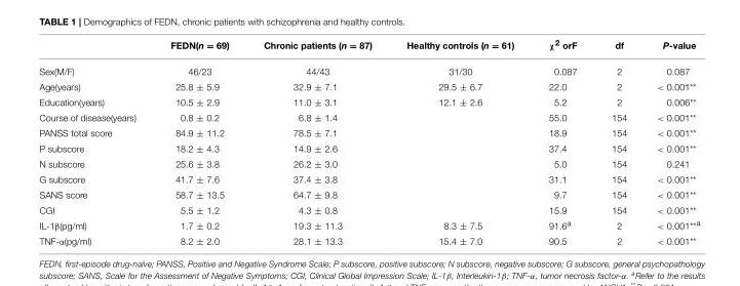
<table><thead><tr><td></td><td>FEDN(n = 69)</td><td>Chronic patients (n = 87)</td><td>Healthy controls (n = 61)</td><td>χ<sup>2</sup> orF</td><td>df</td><td>P-value</td></tr></thead><tbody><tr><td>Sex(M/F)</td><td>46/23</td><td>44/43</td><td>31/30</td><td>0.087</td><td>2</td><td>0.087</td></tr><tr><td>Age(years)</td><td>25.8 ± 5.9</td><td>32.9 ± 7.1</td><td>29.5 ± 6.7</td><td>22.0</td><td>2</td><td>&lt; 0.001**</td></tr><tr><td>Education(years)</td><td>10.5 ± 2.9</td><td>11.0 ± 3.1</td><td>12.1 ± 2.6</td><td>5.2</td><td>2</td><td>0.006**</td></tr><tr><td>Course of disease(years)</td><td>0.8 ± 0.2</td><td>6.8 ± 1.4</td><td></td><td>55.0</td><td>154</td><td>&lt; 0.001**</td></tr><tr><td>PANSS total score</td><td>84.9 ± 11.2</td><td>78.5 ± 7.1</td><td></td><td>18.9</td><td>154</td><td>&lt; 0.001**</td></tr><tr><td>P subscore</td><td>18.2 ± 4.3</td><td>14.9 ± 2.6</td><td></td><td>37.4</td><td>154</td><td>&lt; 0.001**</td></tr><tr><td>N subscore</td><td>25.6 ± 3.8</td><td>26.2 ± 3.0</td><td></td><td>5.0</td><td>154</td><td>0.241</td></tr><tr><td>G subscore</td><td>41.7 ± 7.6</td><td>37.4 ± 3.8</td><td></td><td>31.1</td><td>154</td><td>&lt; 0.001**</td></tr><tr><td>SANS score</td><td>58.7 ± 13.5</td><td>64.7 ± 9.8</td><td></td><td>9.7</td><td>154</td><td>&lt; 0.001**</td></tr><tr><td>CGI</td><td>5.5 ± 1.2</td><td>4.3 ± 0.8</td><td></td><td>15.9</td><td>154</td><td>&lt; 0.001**</td></tr><tr><td>IL-1β(pg/ml)</td><td>1.7 ± 0.2</td><td>19.3 ± 11.3</td><td>8.3 ± 7.5</td><td>91.6<sup>a</sup></td><td>2</td><td>&lt; 0.001<sup>**a</sup></td></tr><tr><td>TNF-α(pg/ml)</td><td>8.2 ± 2.0</td><td>28.1 ± 13.3</td><td>15.4 ± 7.0</td><td>90.5</td><td>2</td><td>&lt; 0.001**</td></tr></tbody></table>